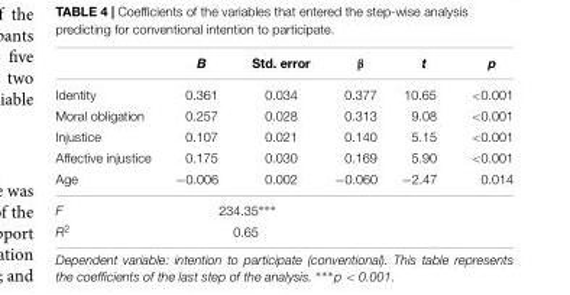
<table><thead><tr><td></td><td>B</td><td>Std. error</td><td>β</td><td>t</td><td>p</td></tr></thead><tbody><tr><td>Identity</td><td>0.361</td><td>0.034</td><td>0.377</td><td>10.65</td><td>&lt;0.001</td></tr><tr><td>Moral obligation</td><td>0.257</td><td>0.028</td><td>0.313</td><td>9.08</td><td>&lt;0.001</td></tr><tr><td>Injustice</td><td>0.107</td><td>0.021</td><td>0.140</td><td>5.15</td><td>&lt;0.001</td></tr><tr><td>Affective injustice</td><td>0.175</td><td>0.030</td><td>0.169</td><td>5.90</td><td>&lt;0.001</td></tr><tr><td>Age</td><td>−0.006</td><td>0.002</td><td>−0.060</td><td>−2.47</td><td>0.014</td></tr><tr><td>F</td><td colspan="2">234.35∗∗∗</td><td colspan="3"></td></tr><tr><td>R<sup>2</sup></td><td colspan="2">0.65</td><td colspan="3"></td></tr></tbody></table>